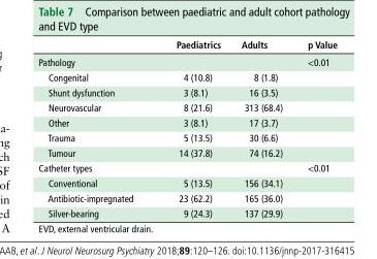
<table><thead><tr><td></td><td>Paediatrics</td><td>Adults</td><td>p Value</td></tr></thead><tbody><tr><td>Pathology</td><td></td><td></td><td>&lt;0.01</td></tr><tr><td>Congenital</td><td>4 (10.8)</td><td>8 (1.8)</td><td></td></tr><tr><td>Shunt dysfunction</td><td>3 (8.1)</td><td>16 (3.5)</td><td></td></tr><tr><td>Neurovascular</td><td>8 (21.6)</td><td>313 (68.4)</td><td></td></tr><tr><td>Other</td><td>3 (8.1)</td><td>17 (3.7)</td><td></td></tr><tr><td>Trauma</td><td>5 (13.5)</td><td>30 (6.6)</td><td></td></tr><tr><td>Tumour</td><td>14 (37.8)</td><td>74 (16.2)</td><td></td></tr><tr><td>Catheter types</td><td></td><td></td><td>&lt;0.01</td></tr><tr><td>Conventional</td><td>5 (13.5)</td><td>156 (34.1)</td><td></td></tr><tr><td>Antibiotic-impregnated</td><td>23 (62.2)</td><td>165 (36.0)</td><td></td></tr><tr><td>Silver-bearing</td><td>9 (24.3)</td><td>137 (29.9)</td><td></td></tr></tbody></table>